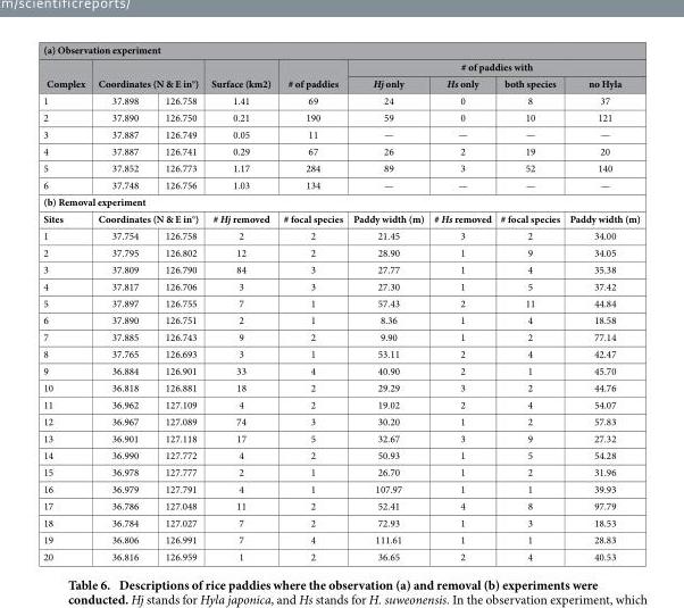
<table><thead><tr><td colspan="9">(a) Observation experiment</td></tr><tr><td rowspan="2">Complex</td><td></td><td></td><td rowspan="2">Surface (km2)</td><td rowspan="2"># of paddies</td><td colspan="4"># of paddies with</td></tr><tr><td colspan="2">Coordinates (N &amp; E in°)</td><td>Hj only</td><td>Hs only</td><td>both species</td><td>no Hyla</td></tr></thead><tbody><tr><td>1</td><td>37.898</td><td>126.758</td><td>1.41</td><td>69</td><td>24</td><td>0</td><td>8</td><td>37</td></tr><tr><td>2</td><td>37.890</td><td>126.750</td><td>0.21</td><td>190</td><td>59</td><td>0</td><td>10</td><td>121</td></tr><tr><td>3</td><td>37.887</td><td>126.749</td><td>0.05</td><td>11</td><td>—</td><td>—</td><td>—</td><td>—</td></tr><tr><td>4</td><td>37.887</td><td>126.741</td><td>0.29</td><td>67</td><td>26</td><td>2</td><td>19</td><td>20</td></tr><tr><td>5</td><td>37.852</td><td>126.773</td><td>1.17</td><td>284</td><td>89</td><td>3</td><td>52</td><td>140</td></tr><tr><td>6</td><td>37.748</td><td>126.756</td><td>1.03</td><td>134</td><td>—</td><td>—</td><td>—</td><td>—</td></tr><tr><td colspan="9">(b) Removal experiment</td></tr><tr><td>Sites</td><td colspan="2">Coordinates (N &amp; E in°)</td><td># Hj removed</td><td># focal species</td><td>Paddy width (m)</td><td># Hs removed</td><td># focal species</td><td>Paddy width (m)</td></tr><tr><td>1</td><td>37.754</td><td>126.758</td><td>2</td><td>2</td><td>21.45</td><td>3</td><td>2</td><td>34.00</td></tr><tr><td>2</td><td>37.795</td><td>126.802</td><td>12</td><td>2</td><td>28.90</td><td>1</td><td>9</td><td>34.05</td></tr><tr><td>3</td><td>37.809</td><td>126.790</td><td>84</td><td>3</td><td>27.77</td><td>1</td><td>4</td><td>35.38</td></tr><tr><td>4</td><td>37.817</td><td>126.706</td><td>3</td><td>3</td><td>27.30</td><td>1</td><td>5</td><td>37.42</td></tr><tr><td>5</td><td>37.897</td><td>126.755</td><td>7</td><td>1</td><td>57.43</td><td>2</td><td>11</td><td>44.84</td></tr><tr><td>6</td><td>37.890</td><td>126.751</td><td>2</td><td>1</td><td>8.36</td><td>1</td><td>4</td><td>18.58</td></tr><tr><td>7</td><td>37.885</td><td>126.743</td><td>9</td><td>2</td><td>9.90</td><td>1</td><td>2</td><td>77.14</td></tr><tr><td>8</td><td>37.765</td><td>126.693</td><td>3</td><td>1</td><td>53.11</td><td>2</td><td>4</td><td>42.47</td></tr><tr><td>9</td><td>36.884</td><td>126.901</td><td>33</td><td>4</td><td>40.90</td><td>2</td><td>1</td><td>45.70</td></tr><tr><td>10</td><td>36.818</td><td>126.881</td><td>18</td><td>2</td><td>29.29</td><td>3</td><td>2</td><td>44.76</td></tr><tr><td>11</td><td>36.962</td><td>127.109</td><td>4</td><td>2</td><td>19.02</td><td>2</td><td>4</td><td>54.07</td></tr><tr><td>12</td><td>36.967</td><td>127.089</td><td>74</td><td>3</td><td>30.20</td><td>1</td><td>2</td><td>57.83</td></tr><tr><td>13</td><td>36.901</td><td>127.118</td><td>17</td><td>5</td><td>32.67</td><td>3</td><td>9</td><td>27.32</td></tr><tr><td>14</td><td>36.990</td><td>127.772</td><td>4</td><td>2</td><td>50.93</td><td>1</td><td>5</td><td>54.28</td></tr><tr><td>15</td><td>36.978</td><td>127.777</td><td>2</td><td>1</td><td>26.70</td><td>1</td><td>2</td><td>31.96</td></tr><tr><td>16</td><td>36.979</td><td>127.791</td><td>4</td><td>1</td><td>107.97</td><td>1</td><td>1</td><td>39.93</td></tr><tr><td>17</td><td>36.786</td><td>127.048</td><td>11</td><td>2</td><td>52.41</td><td>4</td><td>8</td><td>97.79</td></tr><tr><td>18</td><td>36.784</td><td>127.027</td><td>7</td><td>2</td><td>72.93</td><td>1</td><td>3</td><td>18.53</td></tr><tr><td>19</td><td>36.806</td><td>126.991</td><td>7</td><td>4</td><td>111.61</td><td>1</td><td>1</td><td>28.83</td></tr><tr><td>20</td><td>36.816</td><td>126.959</td><td>1</td><td>2</td><td>36.65</td><td>2</td><td>4</td><td>40.53</td></tr></tbody></table>